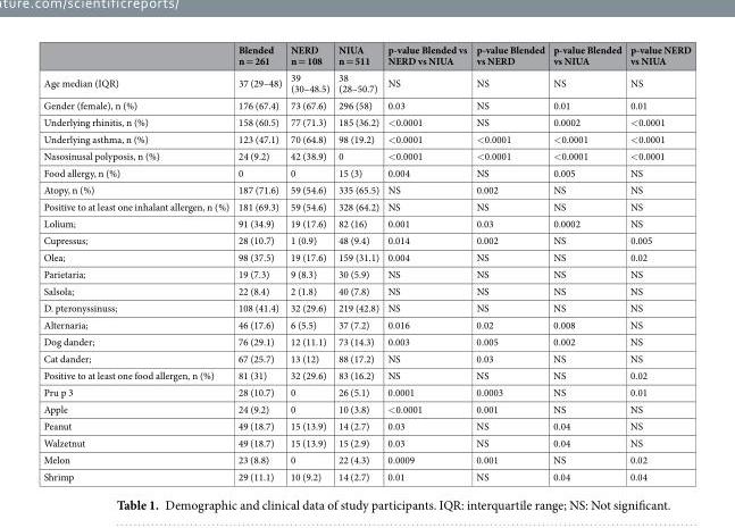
<table><thead><tr><td></td><td>Blended n = 261</td><td>NERD n = 108</td><td>NIUA n = 511</td><td>p-value Blended vs NERD vs NIUA</td><td>p-value Blended vs NERD</td><td>p-value Blended vs NIUA</td><td>p-value NERD vs NIUA</td></tr></thead><tbody><tr><td>Age median (IQR)</td><td>37 (29–48)</td><td>39 (30–48.5)</td><td>38 (28–50.7)</td><td>NS</td><td>NS</td><td>NS</td><td>NS</td></tr><tr><td>Gender (female), n (%)</td><td>176 (67.4)</td><td>73 (67.6)</td><td>296 (58)</td><td>0.03</td><td>NS</td><td>0.01</td><td>0.01</td></tr><tr><td>Underlying rhinitis, n (%)</td><td>158 (60.5)</td><td>77 (71.3)</td><td>185 (36.2)</td><td>&lt;0.0001</td><td>NS</td><td>0.0002</td><td>&lt;0.0001</td></tr><tr><td>Underlying asthma, n (%)</td><td>123 (47.1)</td><td>70 (64.8)</td><td>98 (19.2)</td><td>&lt;0.0001</td><td>&lt;0.0001</td><td>&lt;0.0001</td><td>&lt;0.0001</td></tr><tr><td>Nasosinusal polyposis, n (%)</td><td>24 (9.2)</td><td>42 (38.9)</td><td>0</td><td>&lt;0.0001</td><td>&lt;0.0001</td><td>&lt;0.0001</td><td>&lt;0.0001</td></tr><tr><td>Food allergy, n (%)</td><td>0</td><td>0</td><td>15 (3)</td><td>0.004</td><td>NS</td><td>0.005</td><td>NS</td></tr><tr><td>Atopy, n (%)</td><td>187 (71.6)</td><td>59 (54.6)</td><td>335 (65.5)</td><td>NS</td><td>0.002</td><td>NS</td><td>NS</td></tr><tr><td>Positive to at least one inhalant allergen, n (%)</td><td>181 (69.3)</td><td>59 (54.6)</td><td>328 (64.2)</td><td>NS</td><td>NS</td><td>NS</td><td>NS</td></tr><tr><td>Lolium;</td><td>91 (34.9)</td><td>19 (17.6)</td><td>82 (16)</td><td>0.001</td><td>0.03</td><td>0.0002</td><td>NS</td></tr><tr><td>Cupressus;</td><td>28 (10.7)</td><td>1 (0.9)</td><td>48 (9.4)</td><td>0.014</td><td>0.002</td><td>NS</td><td>0.005</td></tr><tr><td>Olea;</td><td>98 (37.5)</td><td>19 (17.6)</td><td>159 (31.1)</td><td>0.004</td><td>NS</td><td>NS</td><td>0.02</td></tr><tr><td>Parietaria;</td><td>19 (7.3)</td><td>9 (8.3)</td><td>30 (5.9)</td><td>NS</td><td>NS</td><td>NS</td><td>NS</td></tr><tr><td>Salsola;</td><td>22 (8.4)</td><td>2 (1.8)</td><td>40 (7.8)</td><td>NS</td><td>NS</td><td>NS</td><td>NS</td></tr><tr><td>D. pteronyssinuss;</td><td>108 (41.4)</td><td>32 (29.6)</td><td>219 (42.8)</td><td>NS</td><td>NS</td><td>NS</td><td>NS</td></tr><tr><td>Alternaria;</td><td>46 (17.6)</td><td>6 (5.5)</td><td>37 (7.2)</td><td>0.016</td><td>0.02</td><td>0.008</td><td>NS</td></tr><tr><td>Dog dander;</td><td>76 (29.1)</td><td>12 (11.1)</td><td>73 (14.3)</td><td>0.003</td><td>0.005</td><td>0.002</td><td>NS</td></tr><tr><td>Cat dander;</td><td>67 (25.7)</td><td>13 (12)</td><td>88 (17.2)</td><td>NS</td><td>0.03</td><td>NS</td><td>NS</td></tr><tr><td>Positive to at least one food allergen, n (%)</td><td>81 (31)</td><td>32 (29.6)</td><td>83 (16.2)</td><td>NS</td><td>NS</td><td>NS</td><td>0.02</td></tr><tr><td>Pru p 3</td><td>28 (10.7)</td><td>0</td><td>26 (5.1)</td><td>0.0001</td><td>0.0003</td><td>NS</td><td>0.01</td></tr><tr><td>Apple</td><td>24 (9.2)</td><td>0</td><td>10 (3.8)</td><td>&lt;0.0001</td><td>0.001</td><td>NS</td><td>NS</td></tr><tr><td>Peanut</td><td>49 (18.7)</td><td>15 (13.9)</td><td>14 (2.7)</td><td>0.03</td><td>NS</td><td>0.04</td><td>NS</td></tr><tr><td>Walzetnut</td><td>49 (18.7)</td><td>15 (13.9)</td><td>15 (2.9)</td><td>0.03</td><td>NS</td><td>0.04</td><td>NS</td></tr><tr><td>Melon</td><td>23 (8.8)</td><td>0</td><td>22 (4.3)</td><td>0.0009</td><td>0.001</td><td>NS</td><td>0.02</td></tr><tr><td>Shrimp</td><td>29 (11.1)</td><td>10 (9.2)</td><td>14 (2.7)</td><td>0.01</td><td>NS</td><td>0.04</td><td>0.04</td></tr></tbody></table>